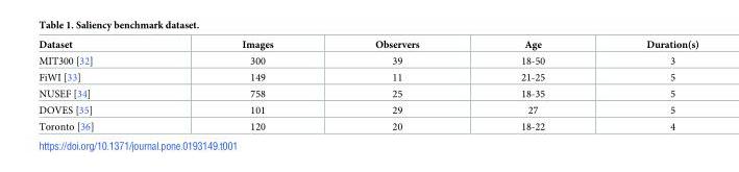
<table><thead><tr><td>Dataset</td><td>Images</td><td>Observers</td><td>Age</td><td>Duration(s)</td></tr></thead><tbody><tr><td>MIT300 [32]</td><td>300</td><td>39</td><td>18-50</td><td>3</td></tr><tr><td>FiWI [33]</td><td>149</td><td>11</td><td>21-25</td><td>5</td></tr><tr><td>NUSEF [34]</td><td>758</td><td>25</td><td>18-35</td><td>5</td></tr><tr><td>DOVES [35]</td><td>101</td><td>29</td><td>27</td><td>5</td></tr><tr><td>Toronto [36]</td><td>120</td><td>20</td><td>18-22</td><td>4</td></tr></tbody></table>